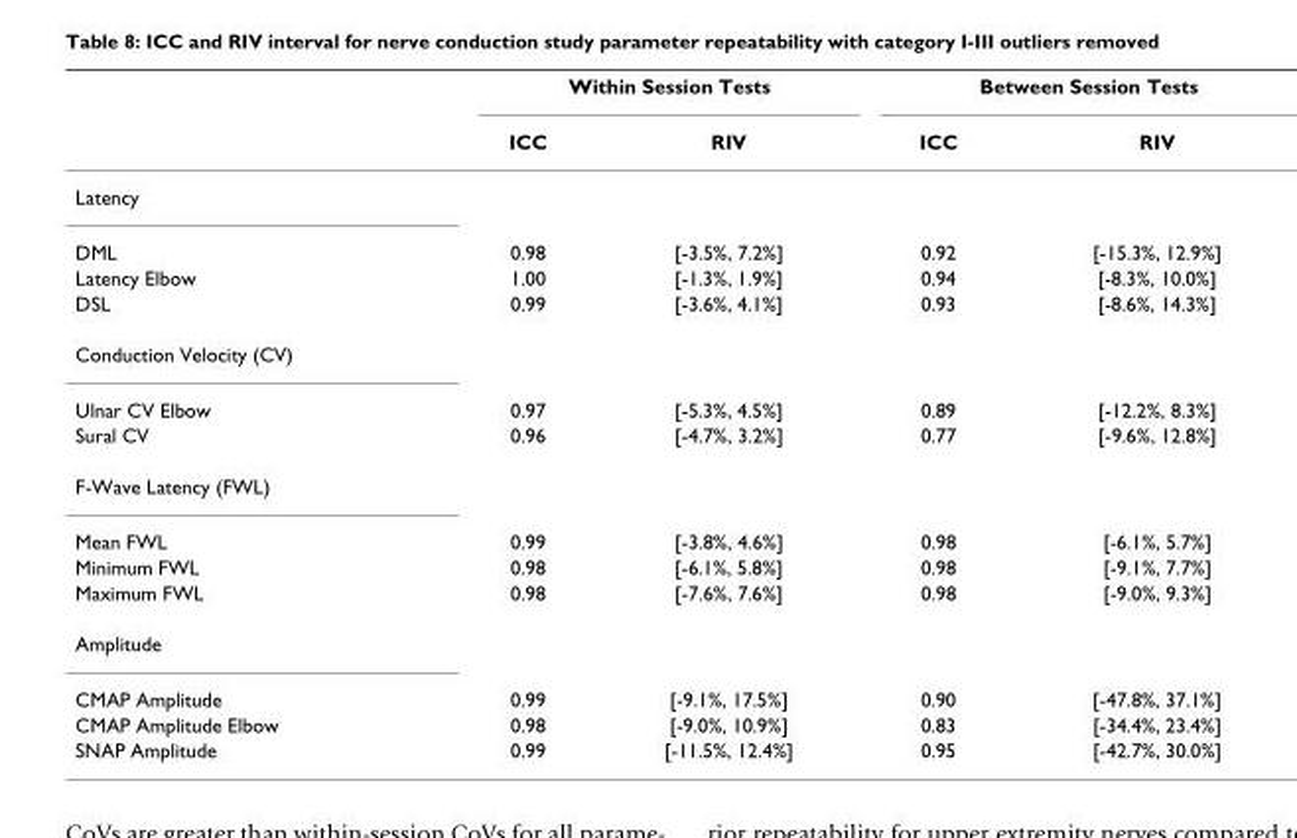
<table><thead><tr><td rowspan="2"></td><td colspan="2">Within Session Tests</td><td colspan="2">Between Session Tests</td></tr><tr><td>ICC</td><td>RIV</td><td>ICC</td><td>RIV</td></tr></thead><tbody><tr><td colspan="5">Latency</td></tr><tr><td>DML</td><td>0.98</td><td>[-3.5%, 7.2%]</td><td>0.92</td><td>[-15.3%, 12.9%]</td></tr><tr><td>Latency Elbow</td><td>1.00</td><td>[-1.3%, 1.9%]</td><td>0.94</td><td>[-8.3%, 10.0%]</td></tr><tr><td>DSL</td><td>0.99</td><td>[-3.6%, 4.1%]</td><td>0.93</td><td>[-8.6%, 14.3%]</td></tr><tr><td colspan="5">Conduction Velocity (CV)</td></tr><tr><td>Ulnar CV Elbow</td><td>0.97</td><td>[-5.3%, 4.5%]</td><td>0.89</td><td>[-12.2%, 8.3%]</td></tr><tr><td>Sural CV</td><td>0.96</td><td>[-4.7%, 3.2%]</td><td>0.77</td><td>[-9.6%, 12.8%]</td></tr><tr><td colspan="5">F-Wave Latency (FWL)</td></tr><tr><td>Mean FWL</td><td>0.99</td><td>[-3.8%, 4.6%]</td><td>0.98</td><td>[-6.1%, 5.7%]</td></tr><tr><td>Minimum FWL</td><td>0.98</td><td>[-6.1%, 5.8%]</td><td>0.98</td><td>[-9.1%, 7.7%]</td></tr><tr><td>Maximum FWL</td><td>0.98</td><td>[-7.6%, 7.6%]</td><td>0.98</td><td>[-9.0%, 9.3%]</td></tr><tr><td colspan="5">Amplitude</td></tr><tr><td>CMAP Amplitude</td><td>0.99</td><td>[-9.1%, 17.5%]</td><td>0.90</td><td>[-47.8%, 37.1%]</td></tr><tr><td>CMAP Amplitude Elbow</td><td>0.98</td><td>[-9.0%, 10.9%]</td><td>0.83</td><td>[-34.4%, 23.4%]</td></tr><tr><td>SNAP Amplitude</td><td>0.99</td><td>[-11.5%, 12.4%]</td><td>0.95</td><td>[-42.7%, 30.0%]</td></tr></tbody></table>